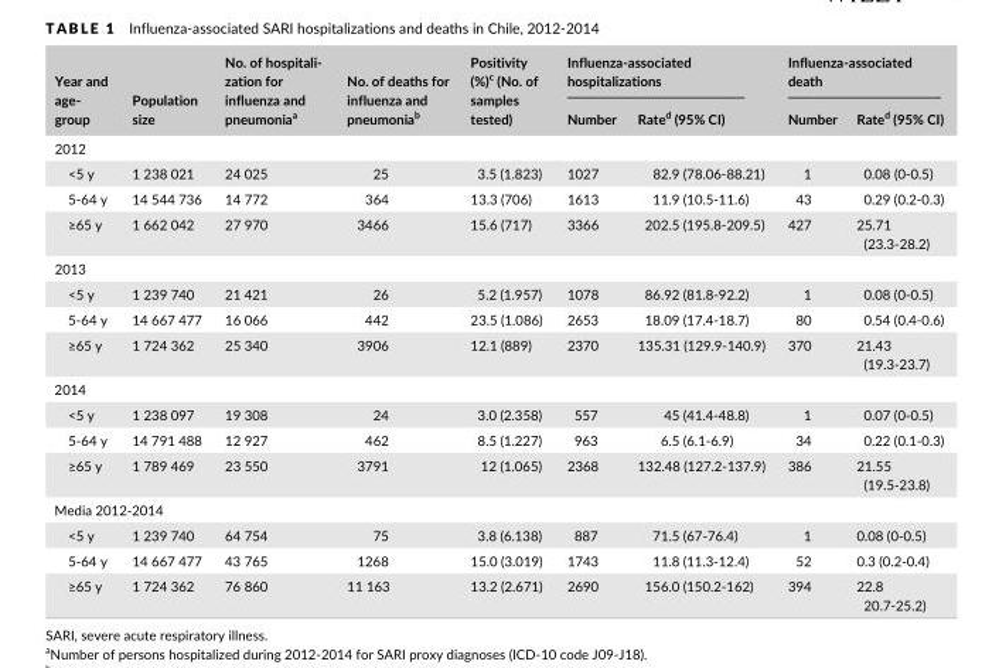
<table><thead><tr><td rowspan="2">Year and age- group</td><td rowspan="2">Population size</td><td rowspan="2">No. of hospitali- zation for influenza and pneumoniaa</td><td rowspan="2">No. of deaths for influenza and pneumonia<sup>b</sup></td><td rowspan="2">Positivity (%)<sup>c</sup> (No. of samples tested)</td><td colspan="2">Influenza- associated hospitalizations</td><td colspan="2">Influenza- associated death</td></tr><tr><td>Number</td><td>Rate<sup>d</sup> (95% CI)</td><td>Number</td><td>Rate<sup>d</sup> (95% CI)</td></tr></thead><tbody><tr><td colspan="9">2012</td></tr><tr><td>&lt;5 y</td><td>1 238 021</td><td>24 025</td><td>25</td><td>3.5 (1.823)</td><td>1027</td><td>82.9 (78.06- 88.21)</td><td>1</td><td>0.08 (0- 0.5)</td></tr><tr><td>5- 64 y</td><td>14 544 736</td><td>14 772</td><td>364</td><td>13.3 (706)</td><td>1613</td><td>11.9 (10.5- 11.6)</td><td>43</td><td>0.29 (0.2- 0.3)</td></tr><tr><td>≥65 y</td><td>1 662 042</td><td>27 970</td><td>3466</td><td>15.6 (717)</td><td>3366</td><td>202.5 (195.8- 209.5)</td><td>427</td><td>25.71 (23.3- 28.2)</td></tr><tr><td colspan="9">2013</td></tr><tr><td>&lt;5 y</td><td>1 239 740</td><td>21 421</td><td>26</td><td>5.2 (1.957)</td><td>1078</td><td>86.92 (81.8- 92.2)</td><td>1</td><td>0.08 (0- 0.5)</td></tr><tr><td>5- 64 y</td><td>14 667 477</td><td>16 066</td><td>442</td><td>23.5 (1.086)</td><td>2653</td><td>18.09 (17.4- 18.7)</td><td>80</td><td>0.54 (0.4- 0.6)</td></tr><tr><td>≥65 y</td><td>1 724 362</td><td>25 340</td><td>3906</td><td>12.1 (889)</td><td>2370</td><td>135.31 (129.9- 140.9)</td><td>370</td><td>21.43 (19.3- 23.7)</td></tr><tr><td colspan="9">2014</td></tr><tr><td>&lt;5 y</td><td>1 238 097</td><td>19 308</td><td>24</td><td>3.0 (2.358)</td><td>557</td><td>45 (41.4- 48.8)</td><td>1</td><td>0.07 (0- 0.5)</td></tr><tr><td>5- 64 y</td><td>14 791 488</td><td>12 927</td><td>462</td><td>8.5 (1.227)</td><td>963</td><td>6.5 (6.1- 6.9)</td><td>34</td><td>0.22 (0.1- 0.3)</td></tr><tr><td>≥65 y</td><td>1 789 469</td><td>23 550</td><td>3791</td><td>12 (1.065)</td><td>2368</td><td>132.48 (127.2- 137.9)</td><td>386</td><td>21.55 (19.5- 23.8)</td></tr><tr><td colspan="9">Media 2012- 2014</td></tr><tr><td>&lt;5 y</td><td>1 239 740</td><td>64 754</td><td>75</td><td>3.8 (6.138)</td><td>887</td><td>71.5 (67- 76.4)</td><td>1</td><td>0.08 (0- 0.5)</td></tr><tr><td>5- 64 y</td><td>14 667 477</td><td>43 765</td><td>1268</td><td>15.0 (3.019)</td><td>1743</td><td>11.8 (11.3- 12.4)</td><td>52</td><td>0.3 (0.2- 0.4)</td></tr><tr><td>≥65 y</td><td>1 724 362</td><td>76 860</td><td>11 163</td><td>13.2 (2.671)</td><td>2690</td><td>156.0 (150.2- 162)</td><td>394</td><td>22.8 20.7- 25.2)</td></tr></tbody></table>